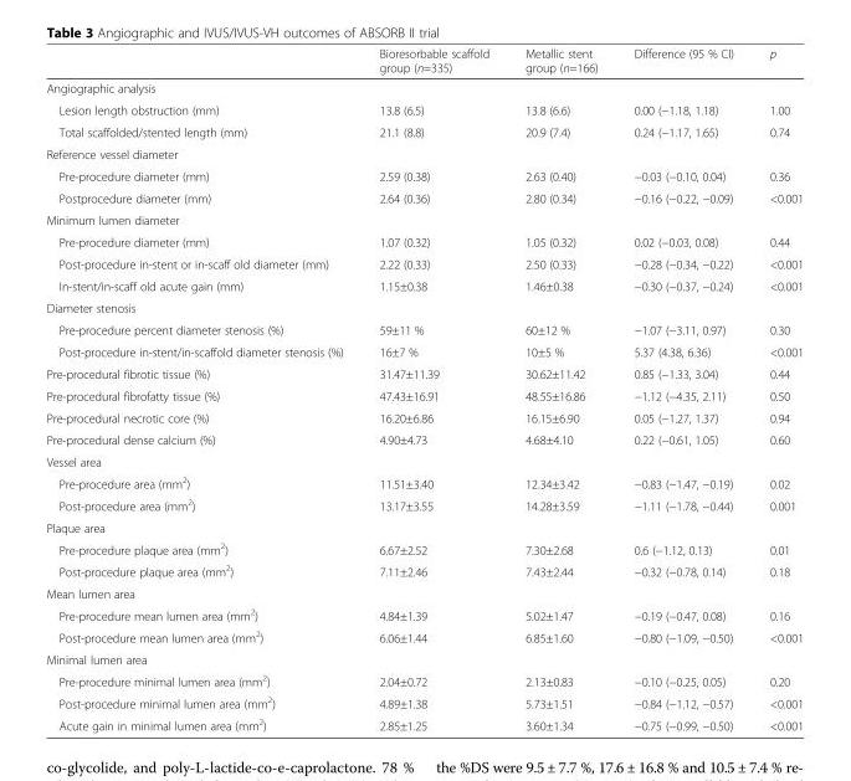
<table><thead><tr><td></td><td>Bioresorbable scaffold group (n=335)</td><td>Metallic stent group (n=166)</td><td>Difference (95 % CI)</td><td>p</td></tr></thead><tbody><tr><td colspan="5">Angiographic analysis</td></tr><tr><td>Lesion length obstruction (mm)</td><td>13.8 (6.5)</td><td>13.8 (6.6)</td><td>0.00 (−1.18, 1.18)</td><td>1.00</td></tr><tr><td>Total scaffolded/stented length (mm)</td><td>21.1 (8.8)</td><td>20.9 (7.4)</td><td>0.24 (−1.17, 1.65)</td><td>0.74</td></tr><tr><td colspan="5">Reference vessel diameter</td></tr><tr><td>Pre-procedure diameter (mm)</td><td>2.59 (0.38)</td><td>2.63 (0.40)</td><td>−0.03 (−0.10, 0.04)</td><td>0.36</td></tr><tr><td>Postprocedure diameter (mm)</td><td>2.64 (0.36)</td><td>2.80 (0.34)</td><td>−0.16 (−0.22, −0.09)</td><td>&lt;0.001</td></tr><tr><td colspan="5">Minimum lumen diameter</td></tr><tr><td>Pre-procedure diameter (mm)</td><td>1.07 (0.32)</td><td>1.05 (0.32)</td><td>0.02 (−0.03, 0.08)</td><td>0.44</td></tr><tr><td>Post-procedure in-stent or in-scaff old diameter (mm)</td><td>2.22 (0.33)</td><td>2.50 (0.33)</td><td>−0.28 (−0.34, −0.22)</td><td>&lt;0.001</td></tr><tr><td>In-stent/in-scaff old acute gain (mm)</td><td>1.15±0.38</td><td>1.46±0.38</td><td>−0.30 (−0.37, −0.24)</td><td>&lt;0.001</td></tr><tr><td colspan="5">Diameter stenosis</td></tr><tr><td>Pre-procedure percent diameter stenosis (%)</td><td>59±11 %</td><td>60±12 %</td><td>−1.07 (−3.11, 0.97)</td><td>0.30</td></tr><tr><td>Post-procedure in-stent/in-scaffold diameter stenosis (%)</td><td>16±7 %</td><td>10±5 %</td><td>5.37 (4.38, 6.36)</td><td>&lt;0.001</td></tr><tr><td>Pre-procedural fibrotic tissue (%)</td><td>31.47±11.39</td><td>30.62±11.42</td><td>0.85 (−1.33, 3.04)</td><td>0.44</td></tr><tr><td>Pre-procedural fibrofatty tissue (%)</td><td>47.43±16.91</td><td>48.55±16.86</td><td>−1.12 (−4.35, 2.11)</td><td>0.50</td></tr><tr><td>Pre-procedural necrotic core (%)</td><td>16.20±6.86</td><td>16.15±6.90</td><td>0.05 (−1.27, 1.37)</td><td>0.94</td></tr><tr><td>Pre-procedural dense calcium (%)</td><td>4.90±4.73</td><td>4.68±4.10</td><td>0.22 (−0.61, 1.05)</td><td>0.60</td></tr><tr><td colspan="5">Vessel area</td></tr><tr><td>Pre-procedure area (mm<sup>2</sup>)</td><td>11.51±3.40</td><td>12.34±3.42</td><td>−0.83 (−1.47, −0.19)</td><td>0.02</td></tr><tr><td>Post-procedure area (mm<sup>2</sup>)</td><td>13.17±3.55</td><td>14.28±3.59</td><td>−1.11 (−1.78, −0.44)</td><td>0.001</td></tr><tr><td colspan="5">Plaque area</td></tr><tr><td>Pre-procedure plaque area (mm<sup>2</sup>)</td><td>6.67±2.52</td><td>7.30±2.68</td><td>0.6 (−1.12, 0.13)</td><td>0.01</td></tr><tr><td>Post-procedure plaque area (mm<sup>2</sup>)</td><td>7.11±2.46</td><td>7.43±2.44</td><td>−0.32 (−0.78, 0.14)</td><td>0.18</td></tr><tr><td colspan="5">Mean lumen area</td></tr><tr><td>Pre-procedure mean lumen area (mm<sup>2</sup>)</td><td>4.84±1.39</td><td>5.02±1.47</td><td>−0.19 (−0.47, 0.08)</td><td>0.16</td></tr><tr><td>Post-procedure mean lumen area (mm<sup>2</sup>)</td><td>6.06±1.44</td><td>6.85±1.60</td><td>−0.80 (−1.09, −0.50)</td><td>&lt;0.001</td></tr><tr><td colspan="5">Minimal lumen area</td></tr><tr><td>Pre-procedure minimal lumen area (mm<sup>2</sup>)</td><td>2.04±0.72</td><td>2.13±0.83</td><td>−0.10 (−0.25, 0.05)</td><td>0.20</td></tr><tr><td>Post-procedure minimal lumen area (mm<sup>2</sup>)</td><td>4.89±1.38</td><td>5.73±1.51</td><td>−0.84 (−1.12, −0.57)</td><td>&lt;0.001</td></tr><tr><td>Acute gain in minimal lumen area (mm<sup>2</sup>)</td><td>2.85±1.25</td><td>3.60±1.34</td><td>−0.75 (−0.99, −0.50)</td><td>&lt;0.001</td></tr></tbody></table>